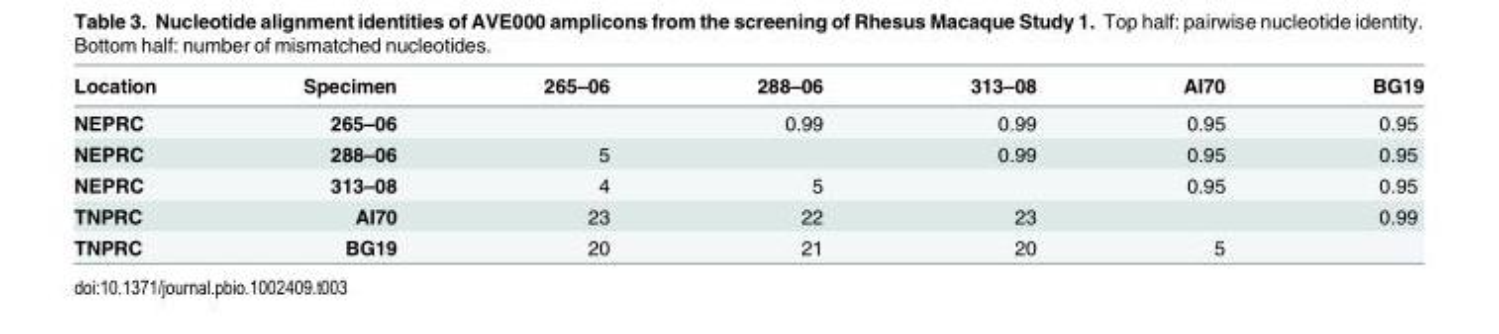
<table><thead><tr><td>Location</td><td>Specimen</td><td>265–06</td><td>288–06</td><td>313–08</td><td>AI70</td><td>BG19</td></tr></thead><tbody><tr><td>NEPRC</td><td>265–06</td><td></td><td>0.99</td><td>0.99</td><td>0.95</td><td>0.95</td></tr><tr><td>NEPRC</td><td>288–06</td><td>5</td><td></td><td>0.99</td><td>0.95</td><td>0.95</td></tr><tr><td>NEPRC</td><td>313–08</td><td>4</td><td>5</td><td></td><td>0.95</td><td>0.95</td></tr><tr><td>TNPRC</td><td>AI70</td><td>23</td><td>22</td><td>23</td><td></td><td>0.99</td></tr><tr><td>TNPRC</td><td>BG19</td><td>20</td><td>21</td><td>20</td><td>5</td><td></td></tr></tbody></table>